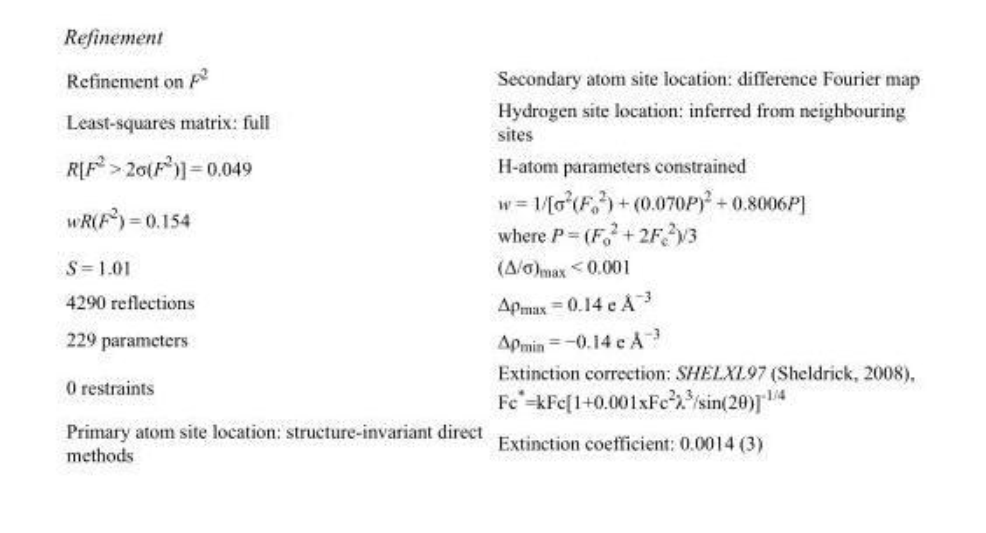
<table><tbody><tr><td>Refinement on F<sup>2</sup></td><td>Secondary atom site location: difference Fourier map</td></tr><tr><td>Least-squares matrix: full</td><td>Hydrogen site location: inferred from neighbouring sites</td></tr><tr><td>R[F<sup>2</sup> &gt; 2σ(F<sup>2</sup>)] = 0.049</td><td>H-atom parameters constrained</td></tr><tr><td>wR(F<sup>2</sup>) = 0.154</td><td>w = 1/[σ<sup>2</sup>(F<sub>o</sub> <sup>2</sup>) + (0.070P)<sup>2</sup> + 0.8006P] where P = (F<sub>o</sub> <sup>2</sup> + 2F<sub>c</sub> <sup>2</sup>)/3</td></tr><tr><td>S = 1.01</td><td>(Δ/σ)<sub>max</sub> &lt; 0.001</td></tr><tr><td>4290 reflections</td><td>Δρ<sub>max</sub> = 0.14 e Å<sup>−3</sup></td></tr><tr><td>229 parameters</td><td>Δρ<sub>min</sub> = −0.14 e Å<sup>−3</sup></td></tr><tr><td>0 restraints</td><td>Extinction correction: SHELXL97 (Sheldrick, 2008), Fc*=kFc[1+0.001xFc<sup>2</sup>λ<sup>3</sup>/sin(2θ)]<sup>-1/4</sup></td></tr><tr><td>Primary atom site location: structure-invariant direct methods</td><td>Extinction coefficient: 0.0014 (3)</td></tr></tbody></table>